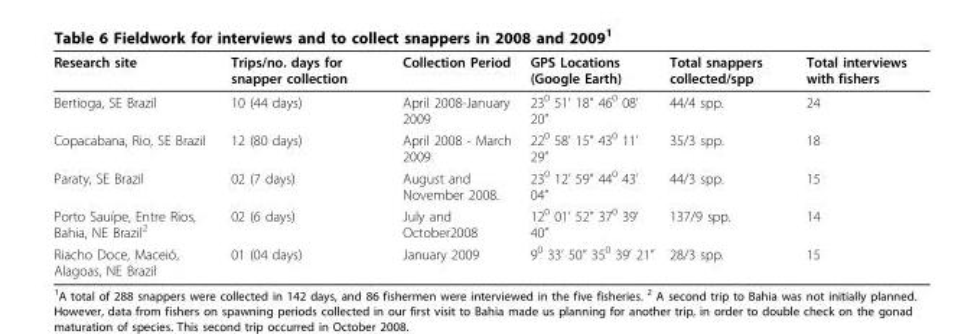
<table><thead><tr><td>Research site</td><td>Trips/no. days for snapper collection</td><td>Collection Period</td><td>GPS Locations (Google Earth)</td><td>Total snappers collected/spp</td><td>Total interviews with fishers</td></tr></thead><tbody><tr><td>Bertioga, SE Brazil</td><td>10 (44 days)</td><td>April 2008-January 2009</td><td>230 51’ 18” 460 08’ 20”</td><td>44/4 spp.</td><td>24</td></tr><tr><td>Copacabana, Rio, SE Brazil</td><td>12 (80 days)</td><td>April 2008 - March 2009</td><td>220 58’ 15” 430 11’ 29”</td><td>35/3 spp.</td><td>18</td></tr><tr><td>Paraty, SE Brazil</td><td>02 (7 days)</td><td>August and November 2008.</td><td>230 12’ 59” 440 43’ 04”</td><td>44/3 spp.</td><td>15</td></tr><tr><td>Porto Sauípe, Entre Rios, Bahia, NE Brazil<sup>2</sup></td><td>02 (6 days)</td><td>July and October2008</td><td>120 01’ 52” 370 39’ 40”</td><td>137/9 spp.</td><td>14</td></tr><tr><td>Riacho Doce, Maceió, Alagoas, NE Brazil</td><td>01 (04 days)</td><td>January 2009</td><td>90 33’ 50” 350 39’ 21”</td><td>28/3 spp.</td><td>15</td></tr></tbody></table>